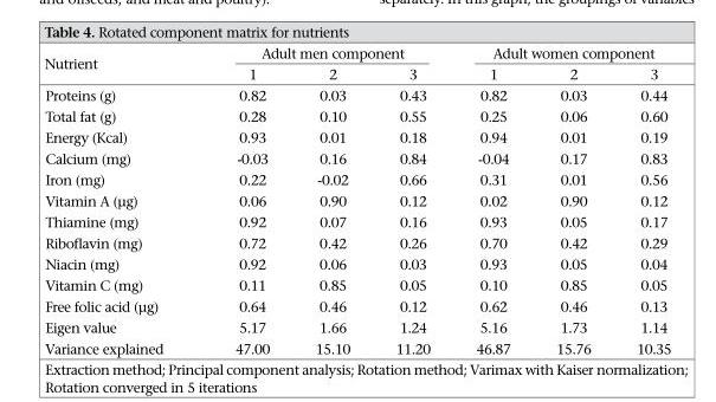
<table><thead><tr><td rowspan="2">Nutrient</td><td colspan="3">Adult men component</td><td colspan="3">Adult women component</td></tr><tr><td>1</td><td>2</td><td>3</td><td>1</td><td>2</td><td>3</td></tr></thead><tbody><tr><td>Proteins (g)</td><td>0.82</td><td>0.03</td><td>0.43</td><td>0.82</td><td>0.03</td><td>0.44</td></tr><tr><td>Total fat (g)</td><td>0.28</td><td>0.10</td><td>0.55</td><td>0.25</td><td>0.06</td><td>0.60</td></tr><tr><td>Energy (Kcal)</td><td>0.93</td><td>0.01</td><td>0.18</td><td>0.94</td><td>0.01</td><td>0.19</td></tr><tr><td>Calcium (mg)</td><td>-0.03</td><td>0.16</td><td>0.84</td><td>-0.04</td><td>0.17</td><td>0.83</td></tr><tr><td>Iron (mg)</td><td>0.22</td><td>-0.02</td><td>0.66</td><td>0.31</td><td>0.01</td><td>0.56</td></tr><tr><td>Vitamin A (µg)</td><td>0.06</td><td>0.90</td><td>0.12</td><td>0.02</td><td>0.90</td><td>0.12</td></tr><tr><td>Thiamine (mg)</td><td>0.92</td><td>0.07</td><td>0.16</td><td>0.93</td><td>0.05</td><td>0.17</td></tr><tr><td>Riboflavin (mg)</td><td>0.72</td><td>0.42</td><td>0.26</td><td>0.70</td><td>0.42</td><td>0.29</td></tr><tr><td>Niacin (mg)</td><td>0.92</td><td>0.06</td><td>0.03</td><td>0.93</td><td>0.05</td><td>0.04</td></tr><tr><td>Vitamin C (mg)</td><td>0.11</td><td>0.85</td><td>0.05</td><td>0.10</td><td>0.85</td><td>0.05</td></tr><tr><td>Free folic acid (µg)</td><td>0.64</td><td>0.46</td><td>0.12</td><td>0.62</td><td>0.46</td><td>0.13</td></tr><tr><td>Eigen value</td><td>5.17</td><td>1.66</td><td>1.24</td><td>5.16</td><td>1.73</td><td>1.14</td></tr><tr><td>Variance explained</td><td>47.00</td><td>15.10</td><td>11.20</td><td>46.87</td><td>15.76</td><td>10.35</td></tr></tbody></table>